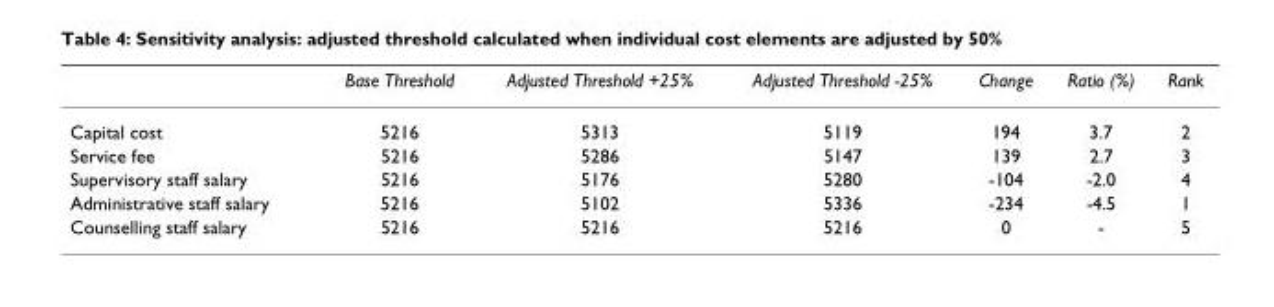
<table><thead><tr><td></td><td>Base Threshold</td><td>Adjusted Threshold +25%</td><td>Adjusted Threshold -25%</td><td>Change</td><td>Ratio (%)</td><td>Rank</td></tr></thead><tbody><tr><td>Capital cost</td><td>5216</td><td>5313</td><td>5119</td><td>194</td><td>3.7</td><td>2</td></tr><tr><td>Service fee</td><td>5216</td><td>5286</td><td>5147</td><td>139</td><td>2.7</td><td>3</td></tr><tr><td>Supervisory staff salary</td><td>5216</td><td>5176</td><td>5280</td><td>-104</td><td>-2.0</td><td>4</td></tr><tr><td>Administrative staff salary</td><td>5216</td><td>5102</td><td>5336</td><td>-234</td><td>-4.5</td><td>1</td></tr><tr><td>Counselling staff salary</td><td>5216</td><td>5216</td><td>5216</td><td>0</td><td>-</td><td>5</td></tr></tbody></table>